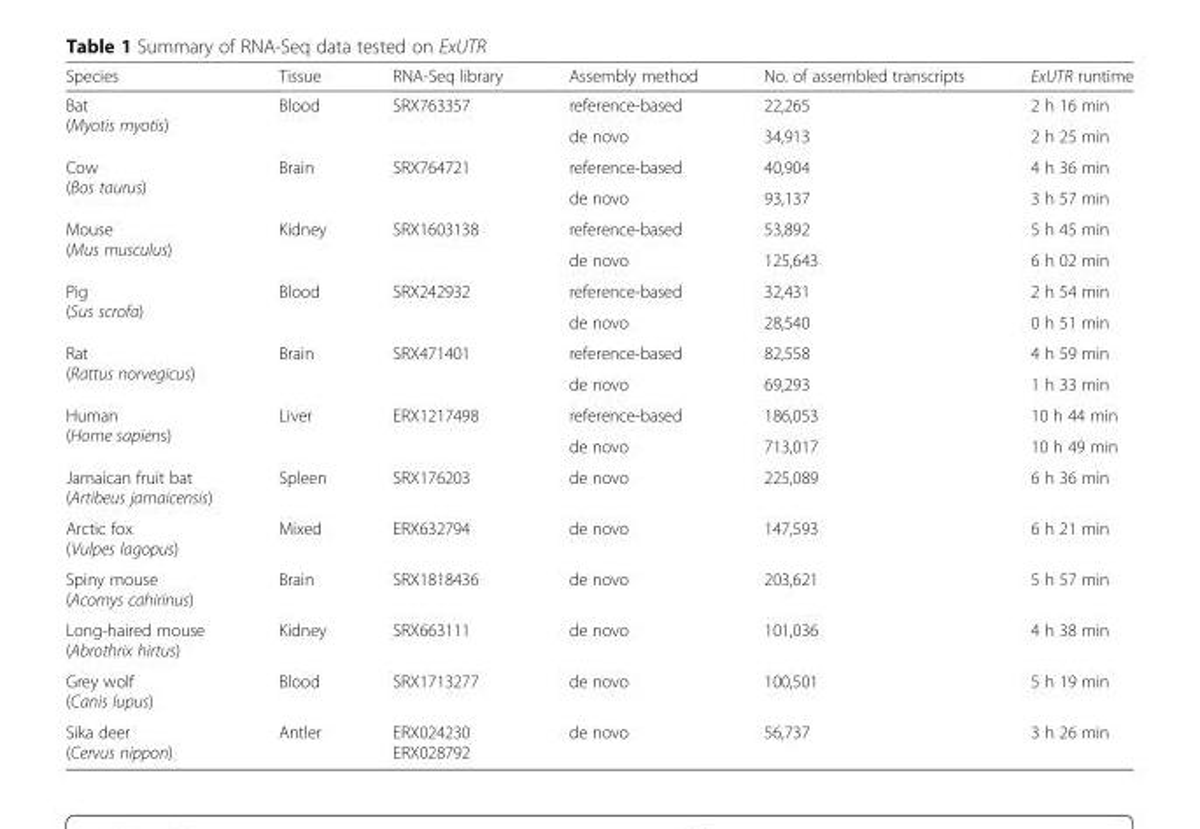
<table><thead><tr><td>Species</td><td>Tissue</td><td>RNA-Seq library</td><td>Assembly method</td><td>No. of assembled transcripts</td><td>ExUTR runtime</td></tr></thead><tbody><tr><td rowspan="2">Bat (Myotis myotis)</td><td rowspan="2">Blood</td><td rowspan="2">SRX763357</td><td>reference-based</td><td>22,265</td><td>2 h 16 min</td></tr><tr><td>de novo</td><td>34,913</td><td>2 h 25 min</td></tr><tr><td rowspan="2">Cow (Bos taurus)</td><td rowspan="2">Brain</td><td rowspan="2">SRX764721</td><td>reference-based</td><td>40,904</td><td>4 h 36 min</td></tr><tr><td>de novo</td><td>93,137</td><td>3 h 57 min</td></tr><tr><td rowspan="2">Mouse (Mus musculus)</td><td rowspan="2">Kidney</td><td rowspan="2">SRX1603138</td><td>reference-based</td><td>53,892</td><td>5 h 45 min</td></tr><tr><td>de novo</td><td>125,643</td><td>6 h 02 min</td></tr><tr><td rowspan="2">Pig (Sus scrofa)</td><td rowspan="2">Blood</td><td rowspan="2">SRX242932</td><td>reference-based</td><td>32,431</td><td>2 h 54 min</td></tr><tr><td>de novo</td><td>28,540</td><td>0 h 51 min</td></tr><tr><td rowspan="2">Rat (Rattus norvegicus)</td><td rowspan="2">Brain</td><td rowspan="2">SRX471401</td><td>reference-based</td><td>82,558</td><td>4 h 59 min</td></tr><tr><td>de novo</td><td>69,293</td><td>1 h 33 min</td></tr><tr><td rowspan="2">Human (Home sapiens)</td><td rowspan="2">Liver</td><td rowspan="2">ERX1217498</td><td>reference-based</td><td>186,053</td><td>10 h 44 min</td></tr><tr><td>de novo</td><td>713,017</td><td>10 h 49 min</td></tr><tr><td>Jamaican fruit bat (Artibeus jamaicensis)</td><td>Spleen</td><td>SRX176203</td><td>de novo</td><td>225,089</td><td>6 h 36 min</td></tr><tr><td>Arctic fox (Vulpes lagopus)</td><td>Mixed</td><td>ERX632794</td><td>de novo</td><td>147,593</td><td>6 h 21 min</td></tr><tr><td>Spiny mouse (Acomys cahirinus)</td><td>Brain</td><td>SRX1818436</td><td>de novo</td><td>203,621</td><td>5 h 57 min</td></tr><tr><td>Long-haired mouse (Abrothrix hirtus)</td><td>Kidney</td><td>SRX663111</td><td>de novo</td><td>101,036</td><td>4 h 38 min</td></tr><tr><td>Grey wolf (Canis lupus)</td><td>Blood</td><td>SRX1713277</td><td>de novo</td><td>100,501</td><td>5 h 19 min</td></tr><tr><td>Sika deer (Cervus nippon)</td><td>Antler</td><td>ERX024230 ERX028792</td><td>de novo</td><td>56,737</td><td>3 h 26 min</td></tr></tbody></table>